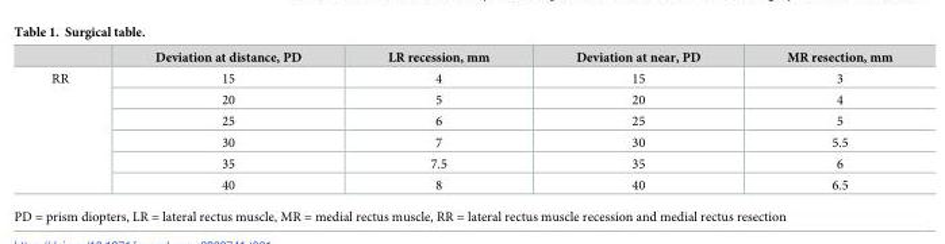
<table><thead><tr><td></td><td>Deviation at distance, PD</td><td>LR recession, mm</td><td>Deviation at near, PD</td><td>MR resection, mm</td></tr></thead><tbody><tr><td rowspan="6">RR</td><td>15</td><td>4</td><td>15</td><td>3</td></tr><tr><td>20</td><td>5</td><td>20</td><td>4</td></tr><tr><td>25</td><td>6</td><td>25</td><td>5</td></tr><tr><td>30</td><td>7</td><td>30</td><td>5.5</td></tr><tr><td>35</td><td>7.5</td><td>35</td><td>6</td></tr><tr><td>40</td><td>8</td><td>40</td><td>6.5</td></tr></tbody></table>